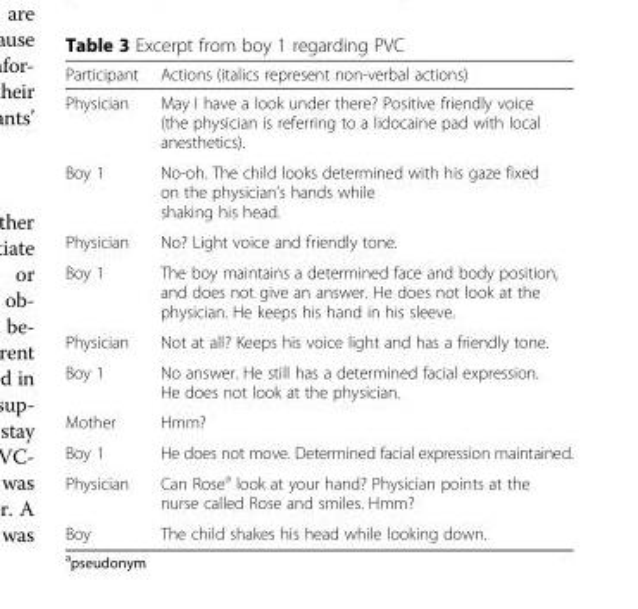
<table><thead><tr><td>Participant</td><td>Actions (italics represent non-verbal actions)</td></tr></thead><tbody><tr><td>Physician</td><td>May I have a look under there? Positive friendly voice (the physician is referring to a lidocaine pad with local anesthetics).</td></tr><tr><td>Boy 1</td><td>No-oh. The child looks determined with his gaze fixed on the physician’s hands while shaking his head.</td></tr><tr><td>Physician</td><td>No? Light voice and friendly tone.</td></tr><tr><td>Boy 1</td><td>The boy maintains a determined face and body position, and does not give an answer. He does not look at the physician. He keeps his hand in his sleeve.</td></tr><tr><td>Physician</td><td>Not at all? Keeps his voice light and has a friendly tone.</td></tr><tr><td>Boy 1</td><td>No answer. He still has a determined facial expression. He does not look at the physician.</td></tr><tr><td>Mother</td><td>Hmm?</td></tr><tr><td>Boy 1</td><td>He does not move. Determined facial expression maintained.</td></tr><tr><td>Physician</td><td>Can Rose<sup>a</sup> look at your hand? Physician points at the nurse called Rose and smiles. Hmm?</td></tr><tr><td>Boy</td><td>The child shakes his head while looking down.</td></tr></tbody></table>